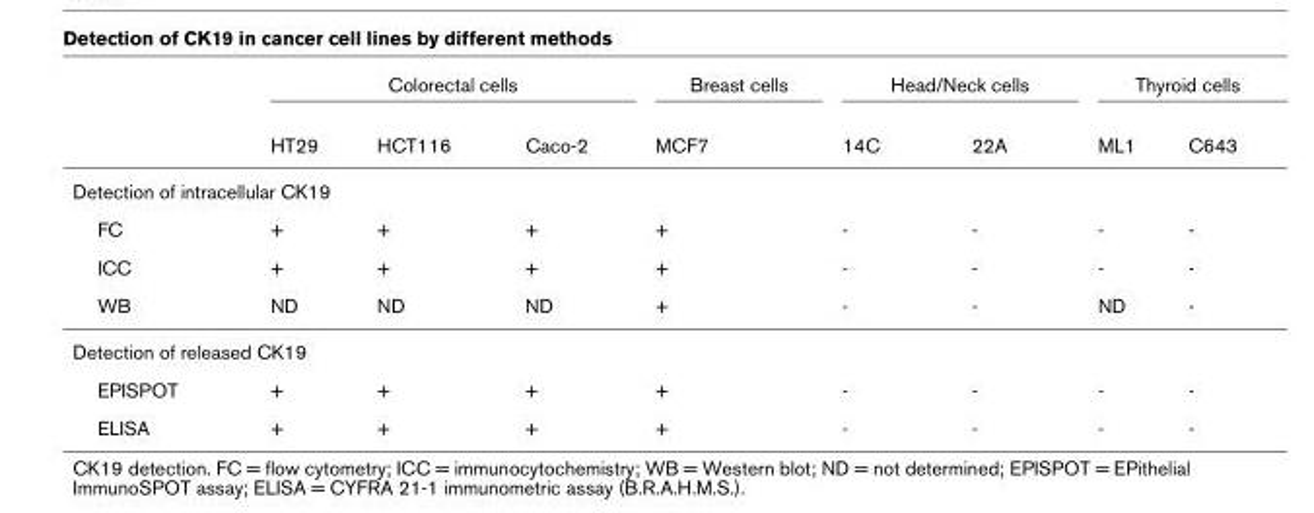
<table><thead><tr><td rowspan="2"></td><td colspan="3">Colorectal cells</td><td rowspan="2">Breast cells MCF7</td><td colspan="2">Head/Neck cells</td><td colspan="2">Thyroid cells</td></tr><tr><td>HT29</td><td>HCT116</td><td>Caco-2</td><td>14C</td><td>22A</td><td>ML1</td><td>C643</td></tr></thead><tbody><tr><td colspan="9">Detection of intracellular CK19</td></tr><tr><td>FC</td><td>+</td><td>+</td><td>+</td><td>+</td><td>-</td><td>-</td><td>-</td><td>-</td></tr><tr><td>ICC</td><td>+</td><td>+</td><td>+</td><td>+</td><td>-</td><td>-</td><td>-</td><td>-</td></tr><tr><td>WB</td><td>ND</td><td>ND</td><td>ND</td><td>+</td><td>-</td><td>-</td><td>ND</td><td>-</td></tr><tr><td colspan="9">Detection of released CK19</td></tr><tr><td>EPISPOT</td><td>+</td><td>+</td><td>+</td><td>+</td><td>-</td><td>-</td><td>-</td><td>-</td></tr><tr><td>ELISA</td><td>+</td><td>+</td><td>+</td><td>+</td><td>-</td><td>-</td><td>-</td><td>-</td></tr></tbody></table>